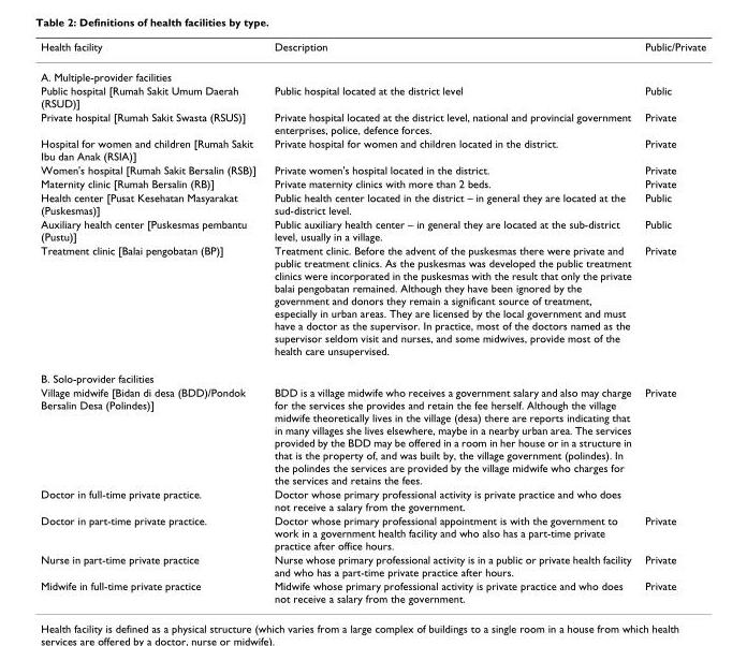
<table><thead><tr><td>Health facility</td><td>Description</td><td>Public/Private</td></tr></thead><tbody><tr><td colspan="3">A. Multiple-provider facilities</td></tr><tr><td>Public hospital [Rumah Sakit Umum Daerah (RSUD)]</td><td>Public hospital located at the district level</td><td>Public</td></tr><tr><td>Private hospital [Rumah Sakit Swasta (RSUS)]</td><td>Private hospital located at the district level, national and provincial government enterprises, police, defence forces.</td><td>Private</td></tr><tr><td>Hospital for women and children [Rumah Sakit Ibu dan Anak (RSIA)]</td><td>Private hospital for women and children located in the district.</td><td>Private</td></tr><tr><td>Women&#x27;s hospital [Rumah Sakit Bersalin (RSB)]</td><td>Private women&#x27;s hospital located in the district.</td><td>Private</td></tr><tr><td>Maternity clinic [Rumah Bersalin (RB)]</td><td>Private maternity clinics with more than 2 beds.</td><td>Private</td></tr><tr><td>Health center [Pusat Kesehatan Masyarakat (Puskesmas)]</td><td>Public health center located in the district – in general they are located at the sud-district level.</td><td>Public</td></tr><tr><td>Auxiliary health center [Puskesmas pembantu (Pustu)]</td><td>Public auxiliary health center – in general they are located at the sub-district level, usually in a village.</td><td>Public</td></tr><tr><td>Treatment clinic [Balai pengobatan (BP)]</td><td>Treatment clinic. Before the advent of the puskesmas there were private and public treatment clinics. As the puskesmas was developed the public treatment clinics were incorporated in the puskesmas with the result that only the private balai pengobatan remained. Although they have been ignored by the government and donors they remain a significant source of treatment, especially in urban areas. They are licensed by the local government and must have a doctor as the supervisor. In practice, most of the doctors named as the supervisor seldom visit and nurses, and some midwives, provide most of the health care unsupervised.</td><td>Private</td></tr><tr><td colspan="3">B. Solo-provider facilities</td></tr><tr><td>Village midwife [Bidan di desa (BDD)/Pondok Bersalin Desa (Polindes)]</td><td>BDD is a village midwife who receives a government salary and also may charge for the services she provides and retain the fee herself. Although the village midwife theoretically lives in the village (desa) there are reports indicating that in many villages she lives elsewhere, maybe in a nearby urban area. The services provided by the BDD may be offered in a room in her house or in a structure in that is the property of, and was built by, the village government (polindes). In the polindes the services are provided by the village midwife who charges for the services and retains the fees.</td><td>Private</td></tr><tr><td>Doctor in full-time private practice.</td><td>Doctor whose primary professional activity is private practice and who does not receive a salary from the government.</td><td></td></tr><tr><td>Doctor in part-time private practice.</td><td>Doctor whose primary professional appointment is with the government to work in a government health facility and who also has a part-time private practice after office hours.</td><td>Private</td></tr><tr><td>Nurse in part-time private practice</td><td>Nurse whose primary professional activity is in a public or private health facility and who has a part-time private practice after hours.</td><td>Private</td></tr><tr><td>Midwife in full-time private practice</td><td>Midwife whose primary professional activity is private practice and who does not receive a salary from the government.</td><td>Private</td></tr></tbody></table>